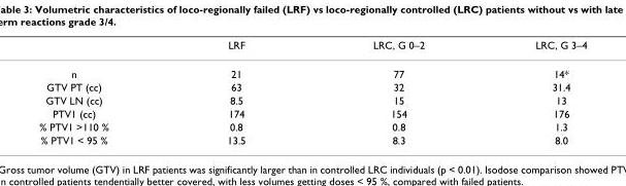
<table><thead><tr><td></td><td>LRF</td><td>LRC, G 0–2</td><td>LRC, G 3–4</td></tr></thead><tbody><tr><td>n</td><td>21</td><td>77</td><td>14*</td></tr><tr><td>GTV PT (cc)</td><td>63</td><td>32</td><td>31.4</td></tr><tr><td>GTV LN (cc)</td><td>8.5</td><td>15</td><td>13</td></tr><tr><td>PTV1 (cc)</td><td>174</td><td>154</td><td>176</td></tr><tr><td>% PTV1 &gt;110 %</td><td>0.8</td><td>0.8</td><td>1.3</td></tr><tr><td>% PTV1 &lt; 95 %</td><td>13.5</td><td>8.3</td><td>8.0</td></tr></tbody></table>